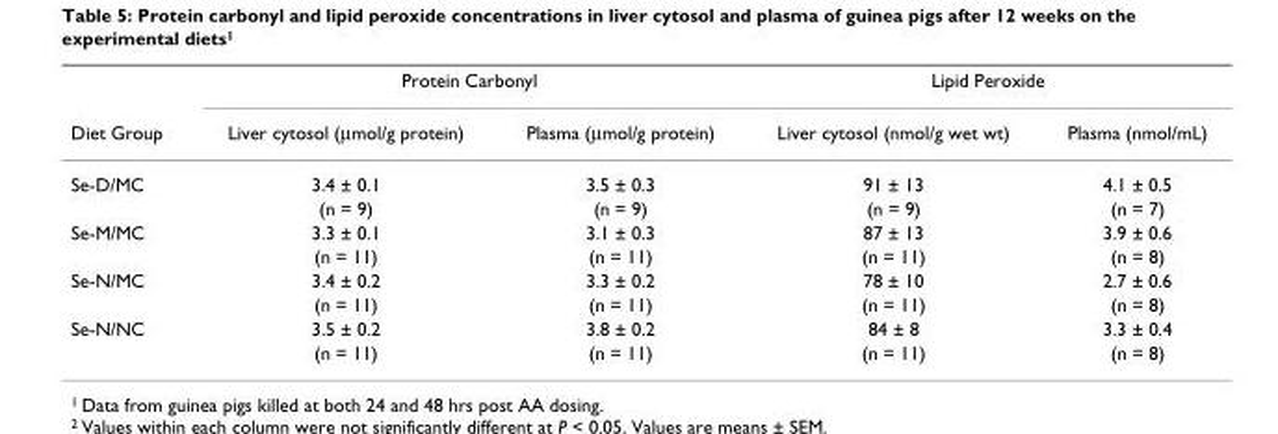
<table><thead><tr><td rowspan="2">Diet Group</td><td colspan="2">Protein Carbonyl</td><td colspan="2">Lipid Peroxide</td></tr><tr><td>Liver cytosol (μmol/g protein)</td><td>Plasma (μmol/g protein)</td><td>Liver cytosol (nmol/g wet wt)</td><td>Plasma (nmol/mL)</td></tr></thead><tbody><tr><td rowspan="2">Se-D/MC</td><td>3.4 ± 0.1</td><td>3.5 ± 0.3</td><td>91 ± 13</td><td>4.1 ± 0.5</td></tr><tr><td>(n = 9)</td><td>(n = 9)</td><td>(n = 9)</td><td>(n = 7)</td></tr><tr><td rowspan="2">Se-M/MC</td><td>3.3 ± 0.1</td><td>3.1 ± 0.3</td><td>87 ± 13</td><td>3.9 ± 0.6</td></tr><tr><td>(n = 11)</td><td>(n = 11)</td><td>(n = 11)</td><td>(n = 8)</td></tr><tr><td rowspan="2">Se-N/MC</td><td>3.4 ± 0.2</td><td>3.3 ± 0.2</td><td>78 ± 10</td><td>2.7 ± 0.6</td></tr><tr><td>(n = 11)</td><td>(n = 11)</td><td>(n = 11)</td><td>(n = 8)</td></tr><tr><td rowspan="2">Se-N/NC</td><td>3.5 ± 0.2</td><td>3.8 ± 0.2</td><td>84 ± 8</td><td>3.3 ± 0.4</td></tr><tr><td>(n = 11)</td><td>(n = 11)</td><td>(n = 11)</td><td>(n = 8)</td></tr></tbody></table>